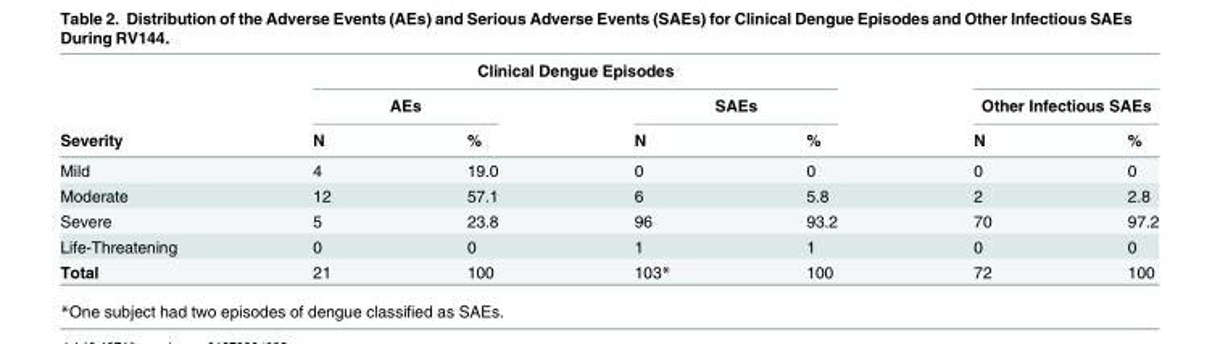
<table><thead><tr><td rowspan="3">Severity</td><td colspan="4">Clinical Dengue Episodes</td><td></td><td></td></tr><tr><td colspan="2">AEs</td><td colspan="2">SAEs</td><td colspan="2">Other Infectious SAEs</td></tr><tr><td>N</td><td>%</td><td>N</td><td>%</td><td>N</td><td>%</td></tr></thead><tbody><tr><td>Mild</td><td>4</td><td>19.0</td><td>0</td><td>0</td><td>0</td><td>0</td></tr><tr><td>Moderate</td><td>12</td><td>57.1</td><td>6</td><td>5.8</td><td>2</td><td>2.8</td></tr><tr><td>Severe</td><td>5</td><td>23.8</td><td>96</td><td>93.2</td><td>70</td><td>97.2</td></tr><tr><td>Life-Threatening</td><td>0</td><td>0</td><td>1</td><td>1</td><td>0</td><td>0</td></tr><tr><td>Total</td><td>21</td><td>100</td><td>103*</td><td>100</td><td>72</td><td>100</td></tr></tbody></table>